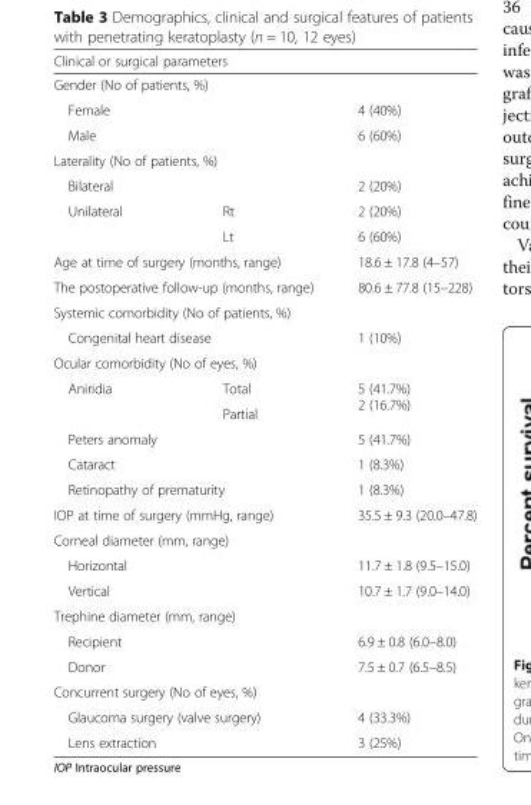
<table><thead><tr><td colspan="2">Clinical or surgical parameters</td><td></td></tr></thead><tbody><tr><td colspan="3">Gender (No of patients, %)</td></tr><tr><td colspan="2">Female</td><td>4 (40%)</td></tr><tr><td colspan="2">Male</td><td>6 (60%)</td></tr><tr><td colspan="3">Laterality (No of patients, %)</td></tr><tr><td colspan="2">Bilateral</td><td>2 (20%)</td></tr><tr><td rowspan="2">Unilateral</td><td>Rt</td><td>2 (20%)</td></tr><tr><td>Lt</td><td>6 (60%)</td></tr><tr><td colspan="2">Age at time of surgery (months, range)</td><td>18.6 ± 17.8 (4–57)</td></tr><tr><td colspan="2">The postoperative follow-up (months, range)</td><td>80.6 ± 77.8 (15–228)</td></tr><tr><td colspan="3">Systemic comorbidity (No of patients, %)</td></tr><tr><td colspan="2">Congenital heart disease</td><td>1 (10%)</td></tr><tr><td colspan="3">Ocular comorbidity (No of eyes, %)</td></tr><tr><td rowspan="2">Aniridia</td><td>Total</td><td rowspan="2">5 (41.7%) 2 (16.7%)</td></tr><tr><td>Partial</td></tr><tr><td colspan="2">Peters anomaly</td><td>5 (41.7%)</td></tr><tr><td colspan="2">Cataract</td><td>1 (8.3%)</td></tr><tr><td colspan="2">Retinopathy of prematurity</td><td>1 (8.3%)</td></tr><tr><td colspan="2">IOP at time of surgery (mmHg, range)</td><td>35.5 ± 9.3 (20.0–47.8)</td></tr><tr><td colspan="3">Corneal diameter (mm, range)</td></tr><tr><td colspan="2">Horizontal</td><td>11.7 ± 1.8 (9.5–15.0)</td></tr><tr><td colspan="2">Vertical</td><td>10.7 ± 1.7 (9.0–14.0)</td></tr><tr><td colspan="3">Trephine diameter (mm, range)</td></tr><tr><td colspan="2">Recipient</td><td>6.9 ± 0.8 (6.0–8.0)</td></tr><tr><td colspan="2">Donor</td><td>7.5 ± 0.7 (6.5–8.5)</td></tr><tr><td colspan="3">Concurrent surgery (No of eyes, %)</td></tr><tr><td colspan="2">Glaucoma surgery (valve surgery)</td><td>4 (33.3%)</td></tr><tr><td colspan="2">Lens extraction</td><td>3 (25%)</td></tr></tbody></table>